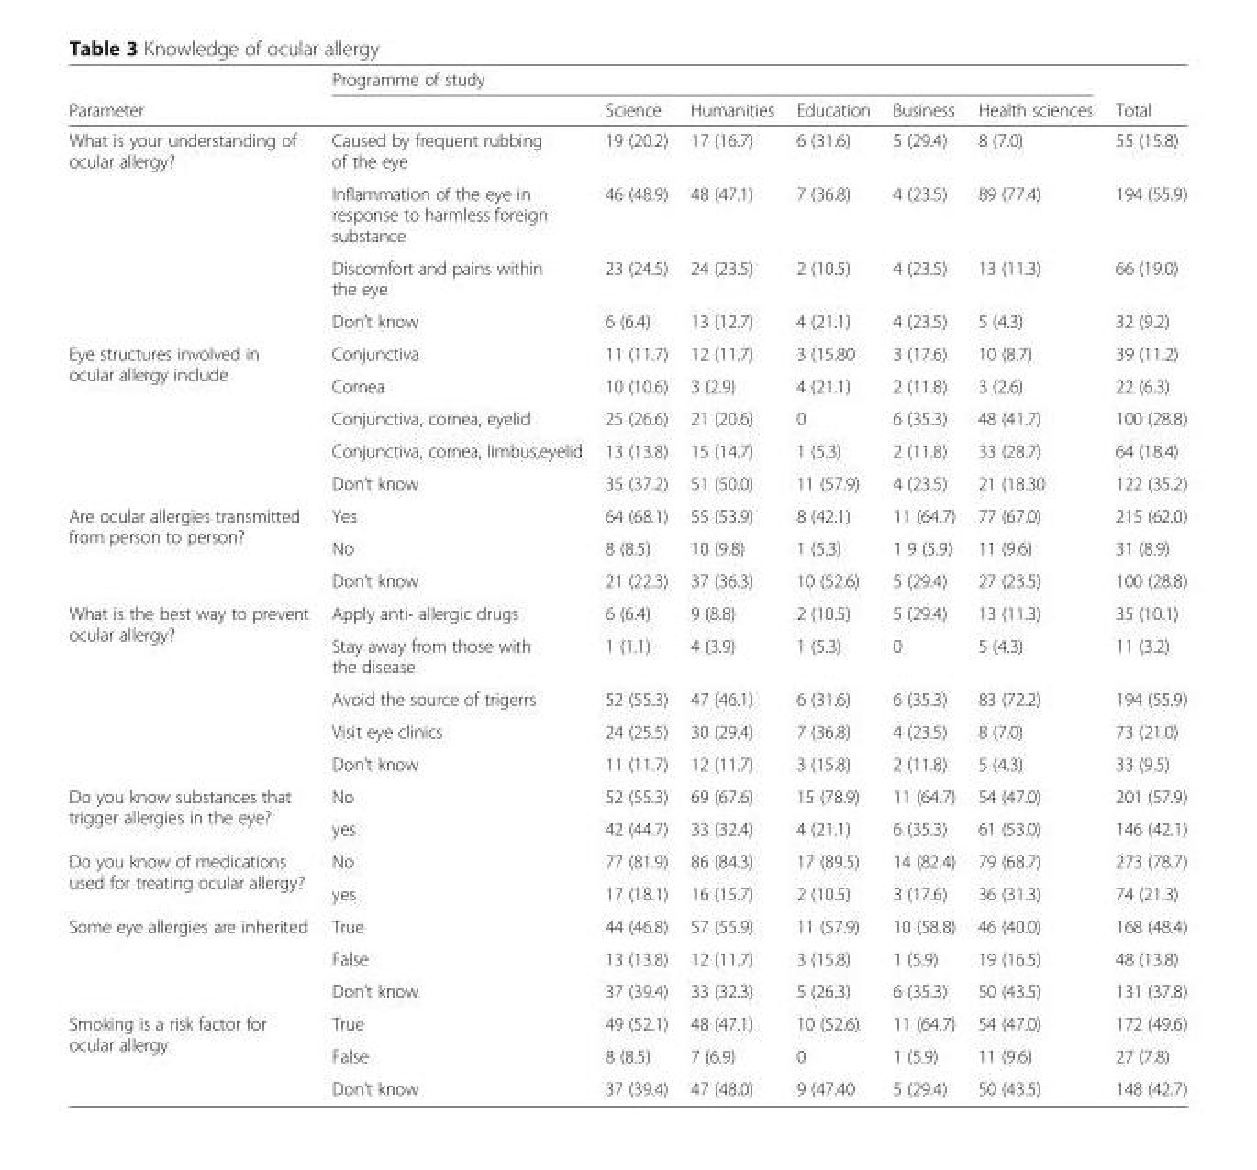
<table><thead><tr><td></td><td colspan="6">Programme of study</td><td rowspan="3">Total 55 (15.8)</td></tr><tr><td colspan="2">Parameter</td><td rowspan="2">Science 19 (20.2)</td><td rowspan="2">Humanities 17 (16.7)</td><td rowspan="2">Education 6 (31.6)</td><td rowspan="2">Business 5 (29.4)</td><td rowspan="2">Health sciences 8 (7.0)</td></tr><tr><td>What is your understanding of ocular allergy?</td><td>Caused by frequent rubbing of the eye</td></tr></thead><tbody><tr><td></td><td>Inflammation of the eye in response to harmless foreign substance</td><td>46 (48.9)</td><td>48 (47.1)</td><td>7 (36.8)</td><td>4 (23.5)</td><td>89 (77.4)</td><td>194 (55.9)</td></tr><tr><td></td><td>Discomfort and pains within the eye</td><td>23 (24.5)</td><td>24 (23.5)</td><td>2 (10.5)</td><td>4 (23.5)</td><td>13 (11.3)</td><td>66 (19.0)</td></tr><tr><td></td><td>Don’t know</td><td>6 (6.4)</td><td>13 (12.7)</td><td>4 (21.1)</td><td>4 (23.5)</td><td>5 (4.3)</td><td>32 (9.2)</td></tr><tr><td rowspan="5">Eye structures involved in ocular allergy include</td><td>Conjunctiva</td><td>11 (11.7)</td><td>12 (11.7)</td><td>3 (15.80</td><td>3 (17.6)</td><td>10 (8.7)</td><td>39 (11.2)</td></tr><tr><td>Cornea</td><td>10 (10.6)</td><td>3 (2.9)</td><td>4 (21.1)</td><td>2 (11.8)</td><td>3 (2.6)</td><td>22 (6.3)</td></tr><tr><td>Conjunctiva, cornea, eyelid</td><td>25 (26.6)</td><td>21 (20.6)</td><td>0</td><td>6 (35.3)</td><td>48 (41.7)</td><td>100 (28.8)</td></tr><tr><td>Conjunctiva, cornea, limbus,eyelid</td><td>13 (13.8)</td><td>15 (14.7)</td><td>1 (5.3)</td><td>2 (11.8)</td><td>33 (28.7)</td><td>64 (18.4)</td></tr><tr><td>Don’t know</td><td>35 (37.2)</td><td>51 (50.0)</td><td>11 (57.9)</td><td>4 (23.5)</td><td>21 (18.30</td><td>122 (35.2)</td></tr><tr><td rowspan="3">Are ocular allergies transmitted from person to person?</td><td>Yes</td><td>64 (68.1)</td><td>55 (53.9)</td><td>8 (42.1)</td><td>11 (64.7)</td><td>77 (67.0)</td><td>215 (62.0)</td></tr><tr><td>No</td><td>8 (8.5)</td><td>10 (9.8)</td><td>1 (5.3)</td><td>1 9 (5.9)</td><td>11 (9.6)</td><td>31 (8.9)</td></tr><tr><td>Don’t know</td><td>21 (22.3)</td><td>37 (36.3)</td><td>10 (52.6)</td><td>5 (29.4)</td><td>27 (23.5)</td><td>100 (28.8)</td></tr><tr><td rowspan="5">What is the best way to prevent ocular allergy?</td><td>Apply anti- allergic drugs</td><td>6 (6.4)</td><td>9 (8.8)</td><td>2 (10.5)</td><td>5 (29.4)</td><td>13 (11.3)</td><td>35 (10.1)</td></tr><tr><td>Stay away from those with the disease</td><td>1 (1.1)</td><td>4 (3.9)</td><td>1 (5.3)</td><td>0</td><td>5 (4.3)</td><td>11 (3.2)</td></tr><tr><td>Avoid the source of trigerrs</td><td>52 (55.3)</td><td>47 (46.1)</td><td>6 (31.6)</td><td>6 (35.3)</td><td>83 (72.2)</td><td>194 (55.9)</td></tr><tr><td>Visit eye clinics</td><td>24 (25.5)</td><td>30 (29.4)</td><td>7 (36.8)</td><td>4 (23.5)</td><td>8 (7.0)</td><td>73 (21.0)</td></tr><tr><td>Don’t know</td><td>11 (11.7)</td><td>12 (11.7)</td><td>3 (15.8)</td><td>2 (11.8)</td><td>5 (4.3)</td><td>33 (9.5)</td></tr><tr><td rowspan="2">Do you know substances that trigger allergies in the eye?</td><td>No</td><td>52 (55.3)</td><td>69 (67.6)</td><td>15 (78.9)</td><td>11 (64.7)</td><td>54 (47.0)</td><td>201 (57.9)</td></tr><tr><td>yes</td><td>42 (44.7)</td><td>33 (32.4)</td><td>4 (21.1)</td><td>6 (35.3)</td><td>61 (53.0)</td><td>146 (42.1)</td></tr><tr><td rowspan="2">Do you know of medications used for treating ocular allergy?</td><td>No</td><td>77 (81.9)</td><td>86 (84.3)</td><td>17 (89.5)</td><td>14 (82.4)</td><td>79 (68.7)</td><td>273 (78.7)</td></tr><tr><td>yes</td><td>17 (18.1)</td><td>16 (15.7)</td><td>2 (10.5)</td><td>3 (17.6)</td><td>36 (31.3)</td><td>74 (21.3)</td></tr><tr><td rowspan="3">Some eye allergies are inherited</td><td>True</td><td>44 (46.8)</td><td>57 (55.9)</td><td>11 (57.9)</td><td>10 (58.8)</td><td>46 (40.0)</td><td>168 (48.4)</td></tr><tr><td>False</td><td>13 (13.8)</td><td>12 (11.7)</td><td>3 (15.8)</td><td>1 (5.9)</td><td>19 (16.5)</td><td>48 (13.8)</td></tr><tr><td>Don’t know</td><td>37 (39.4)</td><td>33 (32.3)</td><td>5 (26.3)</td><td>6 (35.3)</td><td>50 (43.5)</td><td>131 (37.8)</td></tr><tr><td rowspan="3">Smoking is a risk factor for ocular allergy</td><td>True</td><td>49 (52.1)</td><td>48 (47.1)</td><td>10 (52.6)</td><td>11 (64.7)</td><td>54 (47.0)</td><td>172 (49.6)</td></tr><tr><td>False</td><td>8 (8.5)</td><td>7 (6.9)</td><td>0</td><td>1 (5.9)</td><td>11 (9.6)</td><td>27 (7.8)</td></tr><tr><td>Don’t know</td><td>37 (39.4)</td><td>47 (48.0)</td><td>9 (47.40</td><td>5 (29.4)</td><td>50 (43.5)</td><td>148 (42.7)</td></tr></tbody></table>